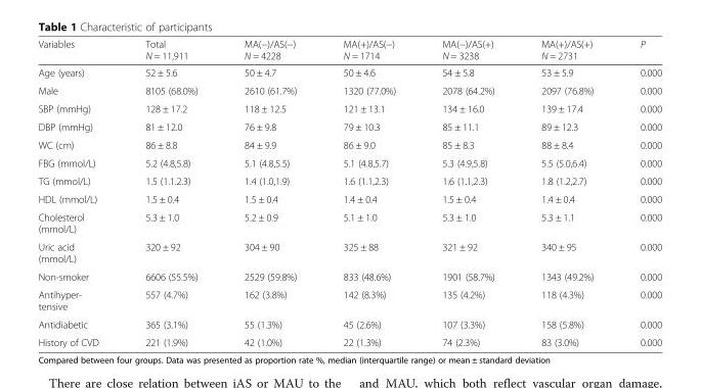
<table><thead><tr><td>Variables</td><td>Total N = 11,911</td><td>MA(−)/AS(−) N = 4228</td><td>MA(+)/AS(−) N = 1714</td><td>MA(−)/AS(+) N = 3238</td><td>MA(+)/AS(+) N = 2731</td><td>P</td></tr></thead><tbody><tr><td>Age (years)</td><td>52 ± 5.6</td><td>50 ± 4.7</td><td>50 ± 4.6</td><td>54 ± 5.8</td><td>53 ± 5.9</td><td>0.000</td></tr><tr><td>Male</td><td>8105 (68.0%)</td><td>2610 (61.7%)</td><td>1320 (77.0%)</td><td>2078 (64.2%)</td><td>2097 (76.8%)</td><td>0.000</td></tr><tr><td>SBP (mmHg)</td><td>128 ± 17.2</td><td>118 ± 12.5</td><td>121 ± 13.1</td><td>134 ± 16.0</td><td>139 ± 17.4</td><td>0.000</td></tr><tr><td>DBP (mmHg)</td><td>81 ± 12.0</td><td>76 ± 9.8</td><td>79 ± 10.3</td><td>85 ± 11.1</td><td>89 ± 12.3</td><td>0.000</td></tr><tr><td>WC (cm)</td><td>86 ± 8.8</td><td>84 ± 9.9</td><td>86 ± 9.0</td><td>85 ± 8.3</td><td>88 ± 8.4</td><td>0.000</td></tr><tr><td>FBG (mmol/L)</td><td>5.2 (4.8,5.8)</td><td>5.1 (4.8,5.5)</td><td>5.1 (4.8,5.7)</td><td>5.3 (4.9,5.8)</td><td>5.5 (5.0,6.4)</td><td>0.000</td></tr><tr><td>TG (mmol/L)</td><td>1.5 (1.1.2.3)</td><td>1.4 (1.0,1.9)</td><td>1.6 (1.1,2.3)</td><td>1.6 (1.1,2.3)</td><td>1.8 (1.2,2.7)</td><td>0.000</td></tr><tr><td>HDL (mmol/L)</td><td>1.5 ± 0.4</td><td>1.5 ± 0.4</td><td>1.4 ± 0.4</td><td>1.5 ± 0.4</td><td>1.4 ± 0.4</td><td>0.000</td></tr><tr><td>Cholesterol (mmol/L)</td><td>5.3 ± 1.0</td><td>5.2 ± 0.9</td><td>5.1 ± 1.0</td><td>5.3 ± 1.0</td><td>5.3 ± 1.1</td><td>0.000</td></tr><tr><td>Uric acid (mmol/L)</td><td>320 ± 92</td><td>304 ± 90</td><td>325 ± 88</td><td>321 ± 92</td><td>340 ± 95</td><td>0.000</td></tr><tr><td>Non-smoker</td><td>6606 (55.5%)</td><td>2529 (59.8%)</td><td>833 (48.6%)</td><td>1901 (58.7%)</td><td>1343 (49.2%)</td><td>0.000</td></tr><tr><td>Antihyper- tensive</td><td>557 (4.7%)</td><td>162 (3.8%)</td><td>142 (8.3%)</td><td>135 (4.2%)</td><td>118 (4.3%)</td><td>0.000</td></tr><tr><td>Antidiabetic</td><td>365 (3.1%)</td><td>55 (1.3%)</td><td>45 (2.6%)</td><td>107 (3.3%)</td><td>158 (5.8%)</td><td>0.000</td></tr><tr><td>History of CVD</td><td>221 (1.9%)</td><td>42 (1.0%)</td><td>22 (1.3%)</td><td>74 (2.3%)</td><td>83 (3.0%)</td><td>0.000</td></tr></tbody></table>